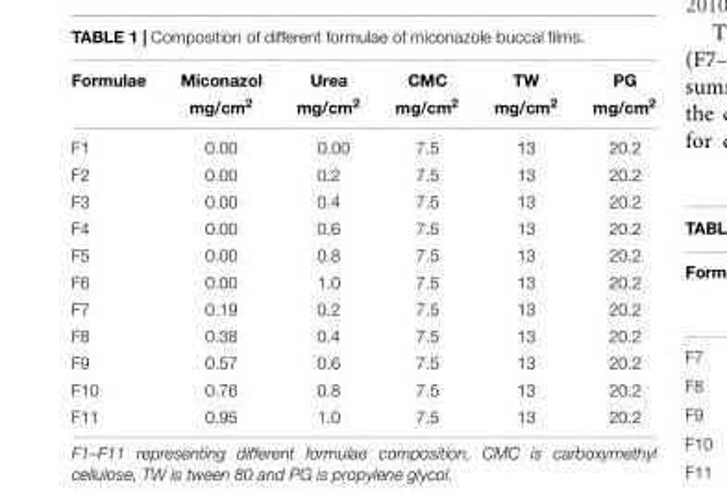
<table><thead><tr><td rowspan="2">Formulae</td><td rowspan="2">Miconazol mg/cm<sup>2</sup></td><td rowspan="2">Urea mg/cm<sup>2</sup></td><td rowspan="2">CMC mg/cm<sup>2</sup></td><td rowspan="2">TW mg/cm<sup>2</sup></td><td rowspan="2">PG mg/cm<sup>2</sup></td></tr><tr></tr></thead><tbody><tr><td>F1</td><td>0.00</td><td>0.00</td><td>7.5</td><td>13</td><td>20.2</td></tr><tr><td>F2</td><td>0.00</td><td>0.2</td><td>7.5</td><td>13</td><td>20.2</td></tr><tr><td>F3</td><td>0.00</td><td>0.4</td><td>7.5</td><td>13</td><td>20.2</td></tr><tr><td>F4</td><td>0.00</td><td>0.6</td><td>7.5</td><td>13</td><td>20.2</td></tr><tr><td>F5</td><td>0.00</td><td>0.8</td><td>7.5</td><td>13</td><td>20.2</td></tr><tr><td>F6</td><td>0.00</td><td>1.0</td><td>7.5</td><td>13</td><td>20.2</td></tr><tr><td>F7</td><td>0.19</td><td>0.2</td><td>7.5</td><td>13</td><td>20.2</td></tr><tr><td>F8</td><td>0.38</td><td>0.4</td><td>7.5</td><td>13</td><td>20.2</td></tr><tr><td>F9</td><td>0.57</td><td>0.6</td><td>7.5</td><td>13</td><td>20.2</td></tr><tr><td>F10</td><td>0.76</td><td>0.8</td><td>7.5</td><td>13</td><td>20.2</td></tr><tr><td>F11</td><td>0.95</td><td>1.0</td><td>7.5</td><td>13</td><td>20.2</td></tr></tbody></table>